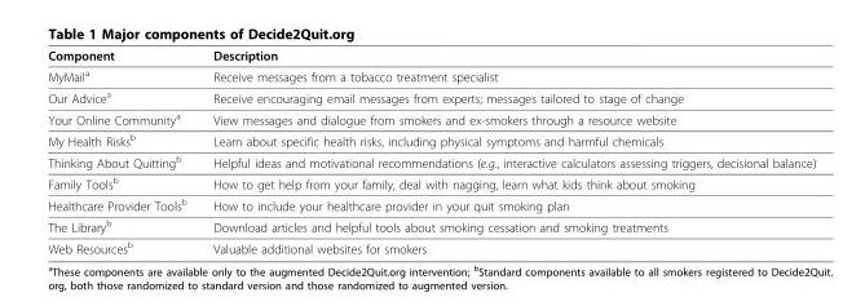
<table><thead><tr><td>Component</td><td>Description</td></tr></thead><tbody><tr><td>MyMail<sup>a</sup></td><td>Receive messages from a tobacco treatment specialist</td></tr><tr><td>Our Advice<sup>a</sup></td><td>Receive encouraging email messages from experts; messages tailored to stage of change</td></tr><tr><td>Your Online Community<sup>a</sup></td><td>View messages and dialogue from smokers and ex-smokers through a resource website</td></tr><tr><td>My Health Risks<sup>b</sup></td><td>Learn about specific health risks, including physical symptoms and harmful chemicals</td></tr><tr><td>Thinking About Quitting<sup>b</sup></td><td>Helpful ideas and motivational recommendations (e.g., interactive calculators assessing triggers, decisional balance)</td></tr><tr><td>Family Tools<sup>b</sup></td><td>How to get help from your family, deal with nagging, learn what kids think about smoking</td></tr><tr><td>Healthcare Provider Tools<sup>b</sup></td><td>How to include your healthcare provider in your quit smoking plan</td></tr><tr><td>The Library<sup>b</sup></td><td>Download articles and helpful tools about smoking cessation and smoking treatments</td></tr><tr><td>Web Resources<sup>b</sup></td><td>Valuable additional websites for smokers</td></tr></tbody></table>